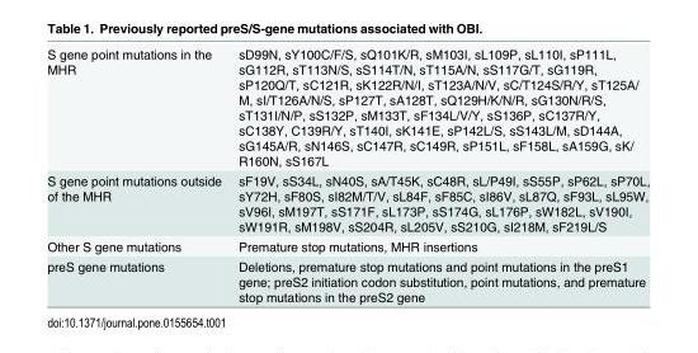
<table><tbody><tr><td>S gene point mutations in the MHR</td><td>sD99N, sY100C/F/S, sQ101K/R, sM103I, sL109P, sL110I, sP111L, sG112R, sT113N/S, sS114T/N, sT115A/N, sS117G/T, sG119R, sP120Q/T, sC121R, sK122R/N/I, sT123A/N/V, sC/T124S/R/Y, sT125A/ M, sI/T126A/N/S, sP127T, sA128T, sQ129H/K/N/R, sG130N/R/S, sT131I/N/P, sS132P, sM133T, sF134L/V/Y, sS136P, sC137R/Y, sC138Y, C139R/Y, sT140I, sK141E, sP142L/S, sS143L/M, sD144A, sG145A/R, sN146S, sC147R, sC149R, sP151L, sF158L, sA159G, sK/ R160N, sS167L</td></tr><tr><td>S gene point mutations outside of the MHR</td><td>sF19V, sS34L, sN40S, sA/T45K, sC48R, sL/P49I, sS55P, sP62L, sP70L, sY72H, sF80S, sI82M/T/V, sL84F, sF85C, sI86V, sL87Q, sF93L, sL95W, sV96I, sM197T, sS171F, sL173P, sS174G, sL176P, sW182L, sV190I, sW191R, sM198V, sS204R, sL205V, sS210G, sI218M, sF219L/S</td></tr><tr><td>Other S gene mutations</td><td>Premature stop mutations, MHR insertions</td></tr><tr><td>preS gene mutations</td><td>Deletions, premature stop mutations and point mutations in the preS1 gene; preS2 initiation codon substitution, point mutations, and premature stop mutations in the preS2 gene</td></tr></tbody></table>